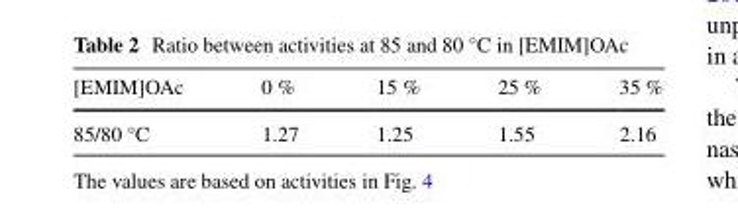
<table><thead><tr><td>[EMIM]OAc</td><td>0 %</td><td>15 %</td><td>25 %</td><td>35 %</td></tr></thead><tbody><tr><td>85/80 °C</td><td>1.27</td><td>1.25</td><td>1.55</td><td>2.16</td></tr></tbody></table>